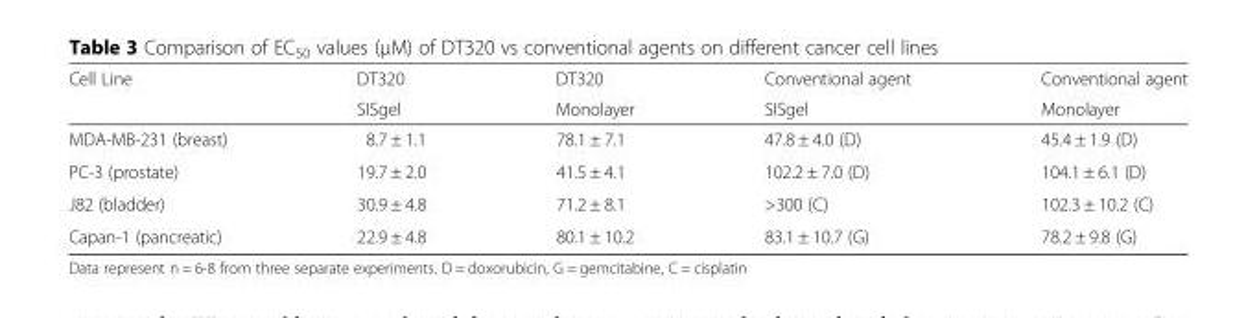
<table><thead><tr><td rowspan="2">Cell Line</td><td rowspan="2">DT320 SISgel</td><td rowspan="2">DT320 Monolayer</td><td rowspan="2">Conventional agent SISgel</td><td rowspan="2">Conventional agent Monolayer</td></tr><tr></tr></thead><tbody><tr><td>MDA-MB-231 (breast)</td><td>8.7 ± 1.1</td><td>78.1 ± 7.1</td><td>47.8 ± 4.0 (D)</td><td>45.4 ± 1.9 (D)</td></tr><tr><td>PC-3 (prostate)</td><td>19.7 ± 2.0</td><td>41.5 ± 4.1</td><td>102.2 ± 7.0 (D)</td><td>104.1 ± 6.1 (D)</td></tr><tr><td>J82 (bladder)</td><td>30.9 ± 4.8</td><td>71.2 ± 8.1</td><td>&gt;300 (C)</td><td>102.3 ± 10.2 (C)</td></tr><tr><td>Capan-1 (pancreatic)</td><td>22.9 ± 4.8</td><td>80.1 ± 10.2</td><td>83.1 ± 10.7 (G)</td><td>78.2 ± 9.8 (G)</td></tr></tbody></table>